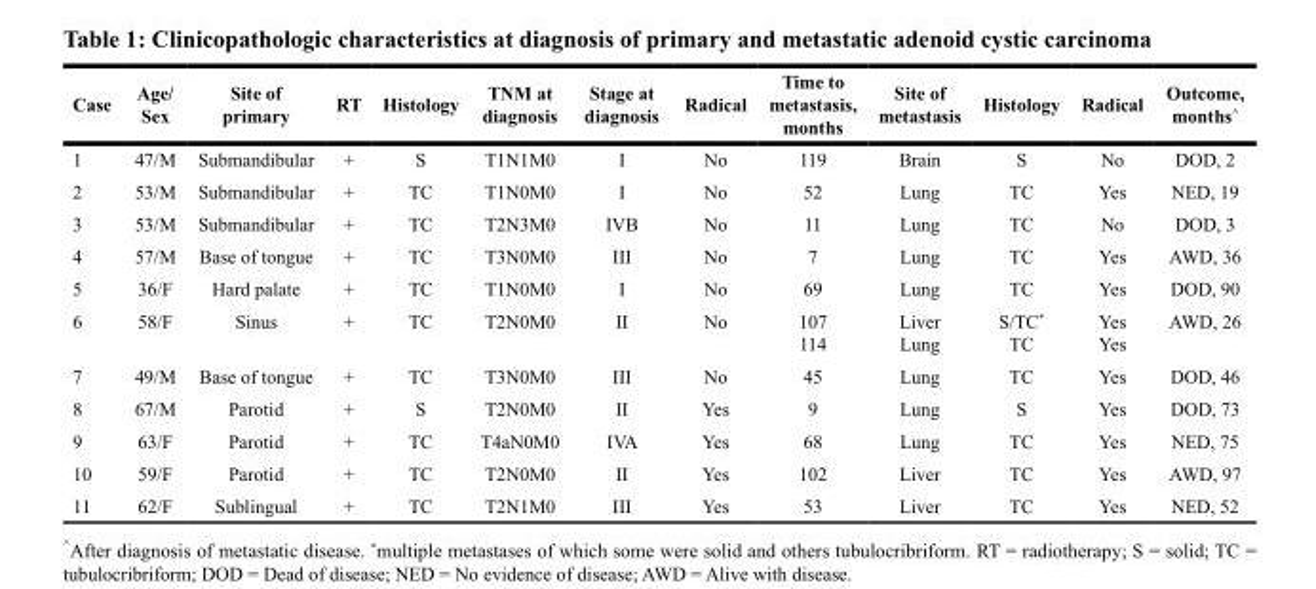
<table><thead><tr><td>Case</td><td>Age/ Sex</td><td>Site of primary</td><td>RT</td><td>Histology</td><td>TNM at diagnosis</td><td>Stage at diagnosis</td><td>Radical</td><td>Time to metastasis, months</td><td>Site of metastasis</td><td>Histology</td><td>Radical</td><td>Outcome, months<sup>^</sup></td></tr></thead><tbody><tr><td>1</td><td>47/M</td><td>Submandibular</td><td>+</td><td>S</td><td>T1N1M0</td><td>I</td><td>No</td><td>119</td><td>Brain</td><td>S</td><td>No</td><td>DOD, 2</td></tr><tr><td>2</td><td>53/M</td><td>Submandibular</td><td>+</td><td>TC</td><td>T1N0M0</td><td>I</td><td>No</td><td>52</td><td>Lung</td><td>TC</td><td>Yes</td><td>NED, 19</td></tr><tr><td>3</td><td>53/M</td><td>Submandibular</td><td>+</td><td>TC</td><td>T2N3M0</td><td>IVB</td><td>No</td><td>11</td><td>Lung</td><td>TC</td><td>No</td><td>DOD, 3</td></tr><tr><td>4</td><td>57/M</td><td>Base of tongue</td><td>+</td><td>TC</td><td>T3N0M0</td><td>III</td><td>No</td><td>7</td><td>Lung</td><td>TC</td><td>Yes</td><td>AWD, 36</td></tr><tr><td>5</td><td>36/F</td><td>Hard palate</td><td>+</td><td>TC</td><td>T1N0M0</td><td>I</td><td>No</td><td>69</td><td>Lung</td><td>TC</td><td>Yes</td><td>DOD, 90</td></tr><tr><td>6</td><td>58/F</td><td>Sinus</td><td>+</td><td>TC</td><td>T2N0M0</td><td>II</td><td>No</td><td>107 114</td><td>Liver Lung</td><td>S/TC* TC</td><td>Yes Yes</td><td>AWD, 26</td></tr><tr><td>7</td><td>49/M</td><td>Base of tongue</td><td>+</td><td>TC</td><td>T3N0M0</td><td>III</td><td>No</td><td>45</td><td>Lung</td><td>TC</td><td>Yes</td><td>DOD, 46</td></tr><tr><td>8</td><td>67/M</td><td>Parotid</td><td>+</td><td>S</td><td>T2N0M0</td><td>II</td><td>Yes</td><td>9</td><td>Lung</td><td>S</td><td>Yes</td><td>DOD, 73</td></tr><tr><td>9</td><td>63/F</td><td>Parotid</td><td>+</td><td>TC</td><td>T4aN0M0</td><td>IVA</td><td>Yes</td><td>68</td><td>Lung</td><td>TC</td><td>Yes</td><td>NED, 75</td></tr><tr><td>10</td><td>59/F</td><td>Parotid</td><td>+</td><td>TC</td><td>T2N0M0</td><td>II</td><td>Yes</td><td>102</td><td>Liver</td><td>TC</td><td>Yes</td><td>AWD, 97</td></tr><tr><td>11</td><td>62/F</td><td>Sublingual</td><td>+</td><td>TC</td><td>T2N1M0</td><td>III</td><td>Yes</td><td>53</td><td>Liver</td><td>TC</td><td>Yes</td><td>NED, 52</td></tr></tbody></table>